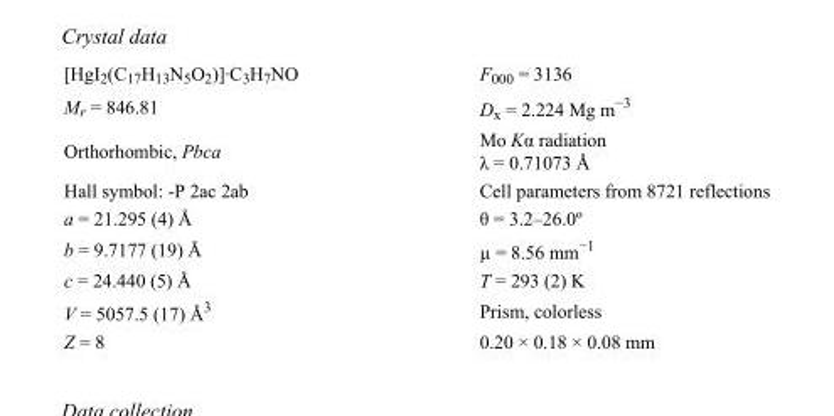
<table><tbody><tr><td>[HgI<sub>2</sub>(C<sub>17</sub>H<sub>13</sub>N<sub>5</sub>O<sub>2</sub>)]·C<sub>3</sub>H<sub>7</sub>NO</td><td>F<sub>000</sub> = 3136</td></tr><tr><td>M<sub>r</sub> = 846.81</td><td>D<sub>x</sub> = 2.224 Mg m<sup>−3</sup></td></tr><tr><td>Orthorhombic, Pbca</td><td>Mo Kα radiation λ = 0.71073 Å</td></tr><tr><td>Hall symbol: -P 2ac 2ab</td><td>Cell parameters from 8721 reflections</td></tr><tr><td>a = 21.295 (4) Å</td><td>θ = 3.2–26.0º</td></tr><tr><td>b = 9.7177 (19) Å</td><td>µ = 8.56 mm<sup>−1</sup></td></tr><tr><td>c = 24.440 (5) Å</td><td>T = 293 (2) K</td></tr><tr><td>V = 5057.5 (17) Å<sup>3</sup></td><td>Prism, colorless</td></tr><tr><td>Z = 8</td><td>0.20 × 0.18 × 0.08 mm</td></tr></tbody></table>